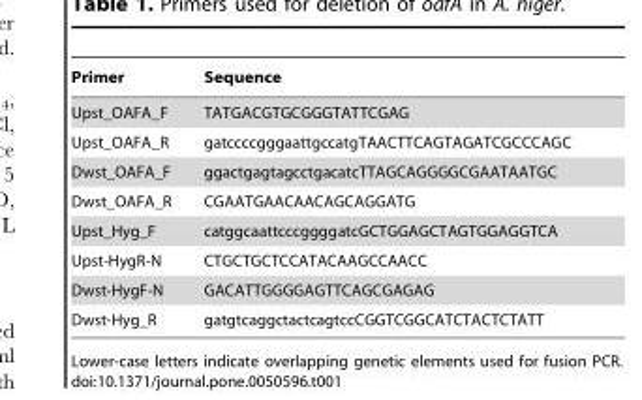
<table><thead><tr><td>Primer</td><td>Sequence</td></tr></thead><tbody><tr><td>Upst_OAFA_F</td><td>TATGACGTGCGGGTATTCGAG</td></tr><tr><td>Upst_OAFA_R</td><td>gatccccgggaattgccatgTAACTTCAGTAGATCGCCCAGC</td></tr><tr><td>Dwst_OAFA_F</td><td>ggactgagtagcctgacatcTTAGCAGGGGCGAATAATGC</td></tr><tr><td>Dwst_OAFA_R</td><td>CGAATGAACAACAGCAGGATG</td></tr><tr><td>Upst_Hyg_F</td><td>catggcaattcccggggatcGCTGGAGCTAGTGGAGGTCA</td></tr><tr><td>Upst-HygR-N</td><td>CTGCTGCTCCATACAAGCCAACC</td></tr><tr><td>Dwst-HygF-N</td><td>GACATTGGGGAGTTCAGCGAGAG</td></tr><tr><td>Dwst-Hyg_R</td><td>gatgtcaggctactcagtccCGGTCGGCATCTACTCTATT</td></tr></tbody></table>